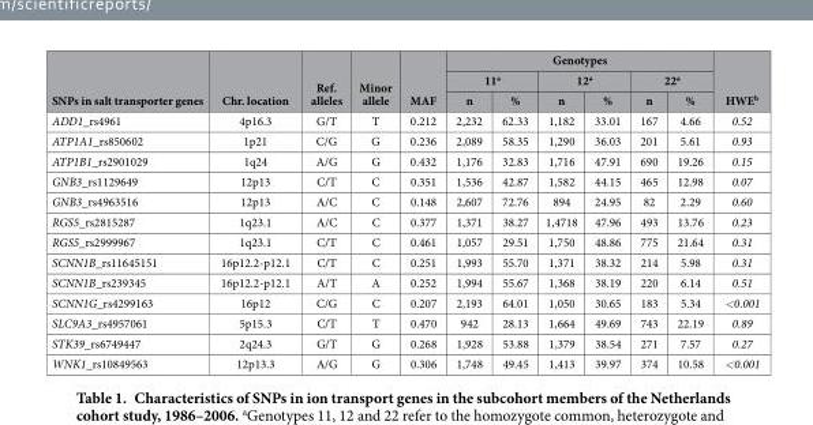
<table><thead><tr><td rowspan="3">SNPs in salt transporter genes</td><td rowspan="3">Chr. location</td><td rowspan="3">Ref. alleles</td><td rowspan="3">Minor allele</td><td rowspan="3">MAF</td><td colspan="6">Genotypes</td><td rowspan="3">HWE<sup>b</sup></td></tr><tr><td colspan="2">11<sup>a</sup></td><td colspan="2">12<sup>a</sup></td><td colspan="2">22<sup>a</sup></td></tr><tr><td>n</td><td>%</td><td>n</td><td>%</td><td>n</td><td>%</td></tr></thead><tbody><tr><td>ADD1_rs4961</td><td>4p16.3</td><td>G/T</td><td>T</td><td>0.212</td><td>2,232</td><td>62.33</td><td>1,182</td><td>33.01</td><td>167</td><td>4.66</td><td>0.52</td></tr><tr><td>ATP1A1_rs850602</td><td>1p21</td><td>C/G</td><td>G</td><td>0.236</td><td>2,089</td><td>58.35</td><td>1,290</td><td>36.03</td><td>201</td><td>5.61</td><td>0.93</td></tr><tr><td>ATP1B1_rs2901029</td><td>1q24</td><td>A/G</td><td>G</td><td>0.432</td><td>1,176</td><td>32.83</td><td>1,716</td><td>47.91</td><td>690</td><td>19.26</td><td>0.15</td></tr><tr><td>GNB3_rs1129649</td><td>12p13</td><td>C/T</td><td>C</td><td>0.351</td><td>1,536</td><td>42.87</td><td>1,582</td><td>44.15</td><td>465</td><td>12.98</td><td>0.07</td></tr><tr><td>GNB3_rs4963516</td><td>12p13</td><td>A/C</td><td>C</td><td>0.148</td><td>2,607</td><td>72.76</td><td>894</td><td>24.95</td><td>82</td><td>2.29</td><td>0.60</td></tr><tr><td>RGS5_rs2815287</td><td>1q23.1</td><td>A/C</td><td>C</td><td>0.377</td><td>1,371</td><td>38.27</td><td>1,4718</td><td>47.96</td><td>493</td><td>13.76</td><td>0.23</td></tr><tr><td>RGS5_rs2999967</td><td>1q23.1</td><td>C/T</td><td>C</td><td>0.461</td><td>1,057</td><td>29.51</td><td>1,750</td><td>48.86</td><td>775</td><td>21.64</td><td>0.31</td></tr><tr><td>SCNN1B_rs11645151</td><td>16p12.2-p12.1</td><td>C/T</td><td>C</td><td>0.251</td><td>1,993</td><td>55.70</td><td>1,371</td><td>38.32</td><td>214</td><td>5.98</td><td>0.31</td></tr><tr><td>SCNN1B_rs239345</td><td>16p12.2-p12.1</td><td>A/T</td><td>A</td><td>0.252</td><td>1,994</td><td>55.67</td><td>1,368</td><td>38.19</td><td>220</td><td>6.14</td><td>0.51</td></tr><tr><td>SCNN1G_rs4299163</td><td>16p12</td><td>C/G</td><td>C</td><td>0.207</td><td>2,193</td><td>64.01</td><td>1,050</td><td>30.65</td><td>183</td><td>5.34</td><td>&lt;0.001</td></tr><tr><td>SLC9A3_rs4957061</td><td>5p15.3</td><td>C/T</td><td>T</td><td>0.470</td><td>942</td><td>28.13</td><td>1,664</td><td>49.69</td><td>743</td><td>22.19</td><td>0.89</td></tr><tr><td>STK39_rs6749447</td><td>2q24.3</td><td>G/T</td><td>G</td><td>0.268</td><td>1,928</td><td>53.88</td><td>1,379</td><td>38.54</td><td>271</td><td>7.57</td><td>0.27</td></tr><tr><td>WNK1_rs10849563</td><td>12p13.3</td><td>A/G</td><td>G</td><td>0.306</td><td>1,748</td><td>49.45</td><td>1,413</td><td>39.97</td><td>374</td><td>10.58</td><td>&lt;0.001</td></tr></tbody></table>